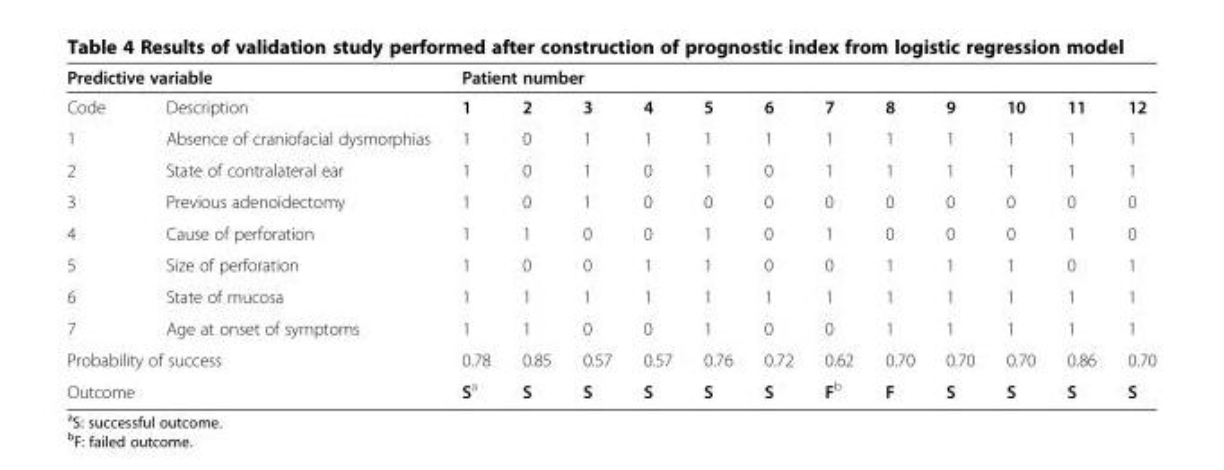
<table><thead><tr><td colspan="2">Predictive variable</td><td colspan="12">Patient number</td></tr><tr><td>Code</td><td>Description</td><td>1</td><td>2</td><td>3</td><td>4</td><td>5</td><td>6</td><td>7</td><td>8</td><td>9</td><td>10</td><td>11</td><td>12</td></tr></thead><tbody><tr><td>1</td><td>Absence of craniofacial dysmorphias</td><td>1</td><td>0</td><td>1</td><td>1</td><td>1</td><td>1</td><td>1</td><td>1</td><td>1</td><td>1</td><td>1</td><td>1</td></tr><tr><td>2</td><td>State of contralateral ear</td><td>1</td><td>0</td><td>1</td><td>0</td><td>1</td><td>0</td><td>1</td><td>1</td><td>1</td><td>1</td><td>1</td><td>1</td></tr><tr><td>3</td><td>Previous adenoidectomy</td><td>1</td><td>0</td><td>1</td><td>0</td><td>0</td><td>0</td><td>0</td><td>0</td><td>0</td><td>0</td><td>0</td><td>0</td></tr><tr><td>4</td><td>Cause of perforation</td><td>1</td><td>1</td><td>0</td><td>0</td><td>1</td><td>0</td><td>1</td><td>0</td><td>0</td><td>0</td><td>1</td><td>0</td></tr><tr><td>5</td><td>Size of perforation</td><td>1</td><td>0</td><td>0</td><td>1</td><td>1</td><td>0</td><td>0</td><td>1</td><td>1</td><td>1</td><td>0</td><td>1</td></tr><tr><td>6</td><td>State of mucosa</td><td>1</td><td>1</td><td>1</td><td>1</td><td>1</td><td>1</td><td>1</td><td>1</td><td>1</td><td>1</td><td>1</td><td>1</td></tr><tr><td>7</td><td>Age at onset of symptoms</td><td>1</td><td>1</td><td>0</td><td>0</td><td>1</td><td>0</td><td>0</td><td>1</td><td>1</td><td>1</td><td>1</td><td>1</td></tr><tr><td colspan="2">Probability of success</td><td>0.78</td><td>0.85</td><td>0.57</td><td>0.57</td><td>0.76</td><td>0.72</td><td>0.62</td><td>0.70</td><td>0.70</td><td>0.70</td><td>0.86</td><td>0.70</td></tr><tr><td>Outcome</td><td></td><td>S<sup>a</sup></td><td>S</td><td>S</td><td>S</td><td>S</td><td>S</td><td>F<sup>b</sup></td><td>F</td><td>S</td><td>S</td><td>S</td><td>S</td></tr></tbody></table>